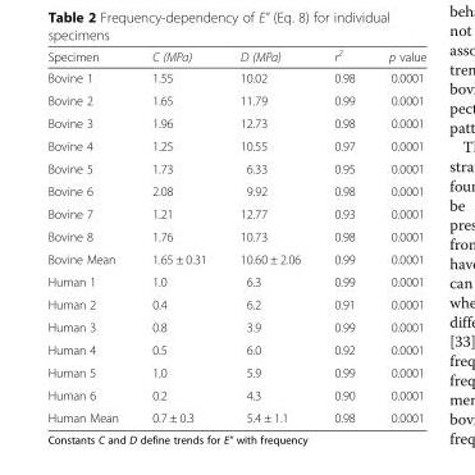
<table><thead><tr><td>Specimen</td><td>C (MPa)</td><td>D (MPa)</td><td>r<sup>2</sup></td><td>p value</td></tr></thead><tbody><tr><td>Bovine 1</td><td>1.55</td><td>10.02</td><td>0.98</td><td>0.0001</td></tr><tr><td>Bovine 2</td><td>1.65</td><td>11.79</td><td>0.99</td><td>0.0001</td></tr><tr><td>Bovine 3</td><td>1.96</td><td>12.73</td><td>0.98</td><td>0.0001</td></tr><tr><td>Bovine 4</td><td>1.25</td><td>10.55</td><td>0.97</td><td>0.0001</td></tr><tr><td>Bovine 5</td><td>1.73</td><td>6.33</td><td>0.95</td><td>0.0001</td></tr><tr><td>Bovine 6</td><td>2.08</td><td>9.92</td><td>0.98</td><td>0.0001</td></tr><tr><td>Bovine 7</td><td>1.21</td><td>12.77</td><td>0.93</td><td>0.0001</td></tr><tr><td>Bovine 8</td><td>1.76</td><td>10.73</td><td>0.98</td><td>0.0001</td></tr><tr><td>Bovine Mean</td><td>1.65 ± 0.31</td><td>10.60 ± 2.06</td><td>0.99</td><td>0.0001</td></tr><tr><td>Human 1</td><td>1.0</td><td>6.3</td><td>0.99</td><td>0.0001</td></tr><tr><td>Human 2</td><td>0.4</td><td>6.2</td><td>0.91</td><td>0.0001</td></tr><tr><td>Human 3</td><td>0.8</td><td>3.9</td><td>0.99</td><td>0.0001</td></tr><tr><td>Human 4</td><td>0.5</td><td>6.0</td><td>0.92</td><td>0.0001</td></tr><tr><td>Human 5</td><td>1.0</td><td>5.9</td><td>0.99</td><td>0.0001</td></tr><tr><td>Human 6</td><td>0.2</td><td>4.3</td><td>0.90</td><td>0.0001</td></tr><tr><td>Human Mean</td><td>0.7 ± 0.3</td><td>5.4 ± 1.1</td><td>0.98</td><td>0.0001</td></tr></tbody></table>